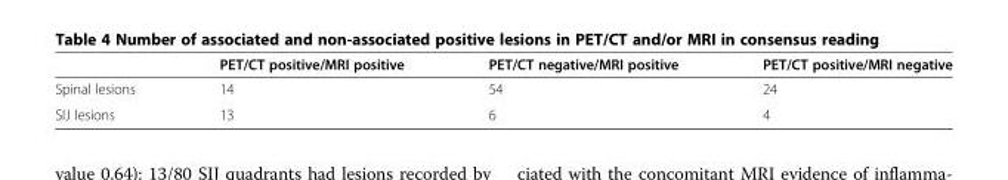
<table><thead><tr><td></td><td>PET/CT positive/MRI positive</td><td>PET/CT negative/MRI positive</td><td>PET/CT positive/MRI negative</td></tr></thead><tbody><tr><td>Spinal lesions</td><td>14</td><td>54</td><td>24</td></tr><tr><td>SIJ lesions</td><td>13</td><td>6</td><td>4</td></tr></tbody></table>